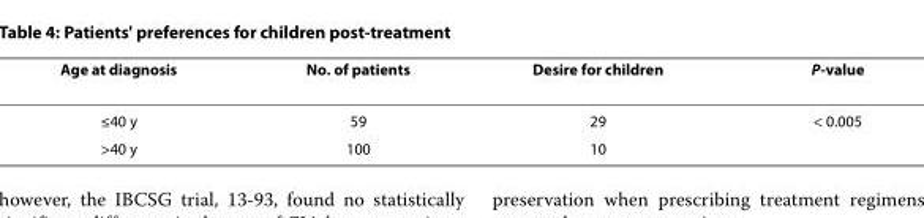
<table><thead><tr><td>Age at diagnosis</td><td>No. of patients</td><td>Desire for children</td><td>P-value</td></tr></thead><tbody><tr><td>≤40 y</td><td>59</td><td>29</td><td>&lt; 0.005</td></tr><tr><td>&gt;40 y</td><td>100</td><td>10</td><td></td></tr></tbody></table>